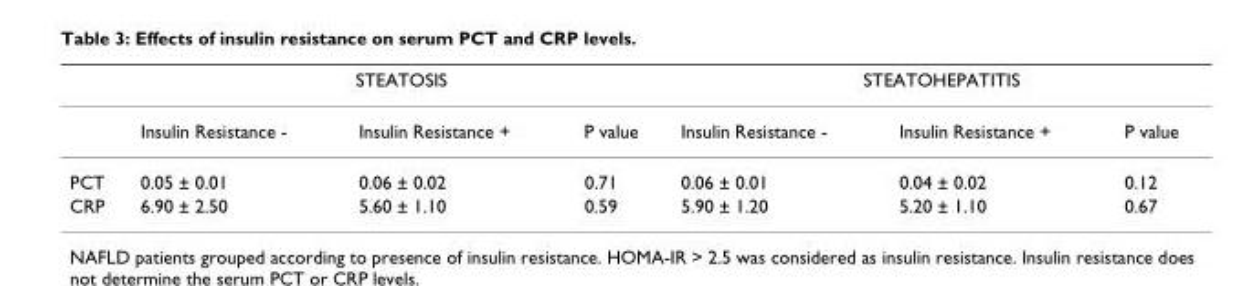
<table><thead><tr><td rowspan="2"></td><td colspan="3">STEATOSIS</td><td colspan="3">STEATOHEPATITIS</td></tr><tr><td>Insulin Resistance -</td><td>Insulin Resistance +</td><td>P value</td><td>Insulin Resistance -</td><td>Insulin Resistance +</td><td>P value</td></tr></thead><tbody><tr><td>PCT</td><td>0.05 ± 0.01</td><td>0.06 ± 0.02</td><td>0.71</td><td>0.06 ± 0.01</td><td>0.04 ± 0.02</td><td>0.12</td></tr><tr><td>CRP</td><td>6.90 ± 2.50</td><td>5.60 ± 1.10</td><td>0.59</td><td>5.90 ± 1.20</td><td>5.20 ± 1.10</td><td>0.67</td></tr></tbody></table>